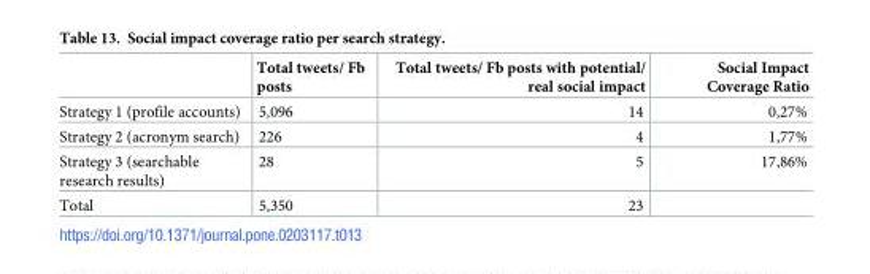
<table><thead><tr><td></td><td>Total tweets/ Fb posts</td><td>Total tweets/ Fb posts with potential/ real social impact</td><td>Social Impact Coverage Ratio</td></tr></thead><tbody><tr><td>Strategy 1 (profile accounts)</td><td>5,096</td><td>14</td><td>0,27%</td></tr><tr><td>Strategy 2 (acronym search)</td><td>226</td><td>4</td><td>1,77%</td></tr><tr><td>Strategy 3 (searchable research results)</td><td>28</td><td>5</td><td>17,86%</td></tr><tr><td>Total</td><td>5,350</td><td>23</td><td></td></tr></tbody></table>